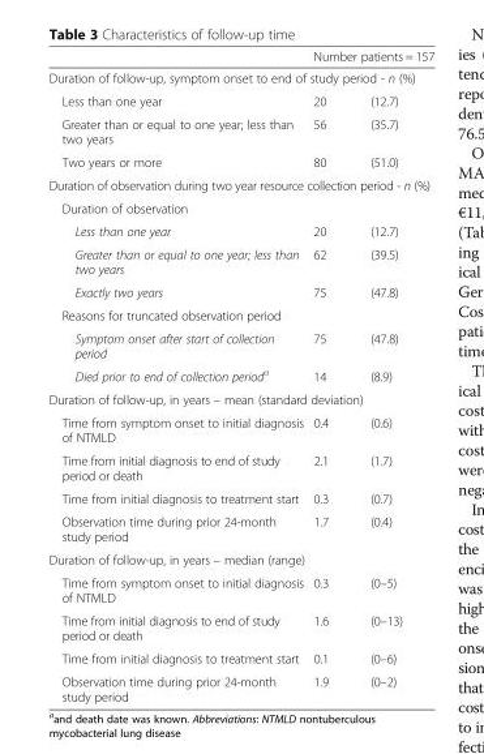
<table><thead><tr><td></td><td colspan="2">Number patients = 157</td></tr><tr><td colspan="3">Duration of follow-up, symptom onset to end of study period - n (%)</td></tr><tr><td>Less than one year</td><td>20</td><td>(12.7)</td></tr></thead><tbody><tr><td>Greater than or equal to one year; less than two years</td><td>56</td><td>(35.7)</td></tr><tr><td>Two years or more</td><td>80</td><td>(51.0)</td></tr><tr><td colspan="3">Duration of observation during two year resource collection period - n (%)</td></tr><tr><td colspan="3">Duration of observation</td></tr><tr><td>Less than one year</td><td>20</td><td>(12.7)</td></tr><tr><td>Greater than or equal to one year; less than two years</td><td>62</td><td>(39.5)</td></tr><tr><td>Exactly two years</td><td>75</td><td>(47.8)</td></tr><tr><td colspan="3">Reasons for truncated observation period</td></tr><tr><td>Symptom onset after start of collection period</td><td>75</td><td>(47.8)</td></tr><tr><td>Died prior to end of collection period<sup>a</sup></td><td>14</td><td>(8.9)</td></tr><tr><td colspan="3">Duration of follow-up, in years – mean (standard deviation)</td></tr><tr><td>Time from symptom onset to initial diagnosis of NTMLD</td><td>0.4</td><td>(0.6)</td></tr><tr><td>Time from initial diagnosis to end of study period or death</td><td>2.1</td><td>(1.7)</td></tr><tr><td>Time from initial diagnosis to treatment start</td><td>0.3</td><td>(0.7)</td></tr><tr><td>Observation time during prior 24-month study period</td><td>1.7</td><td>(0.4)</td></tr><tr><td colspan="3">Duration of follow-up, in years – median (range)</td></tr><tr><td>Time from symptom onset to initial diagnosis of NTMLD</td><td>0.3</td><td>(0–5)</td></tr><tr><td>Time from initial diagnosis to end of study period or death</td><td>1.6</td><td>(0–13)</td></tr><tr><td>Time from initial diagnosis to treatment start</td><td>0.1</td><td>(0–6)</td></tr><tr><td>Observation time during prior 24-month study period</td><td>1.9</td><td>(0–2)</td></tr></tbody></table>